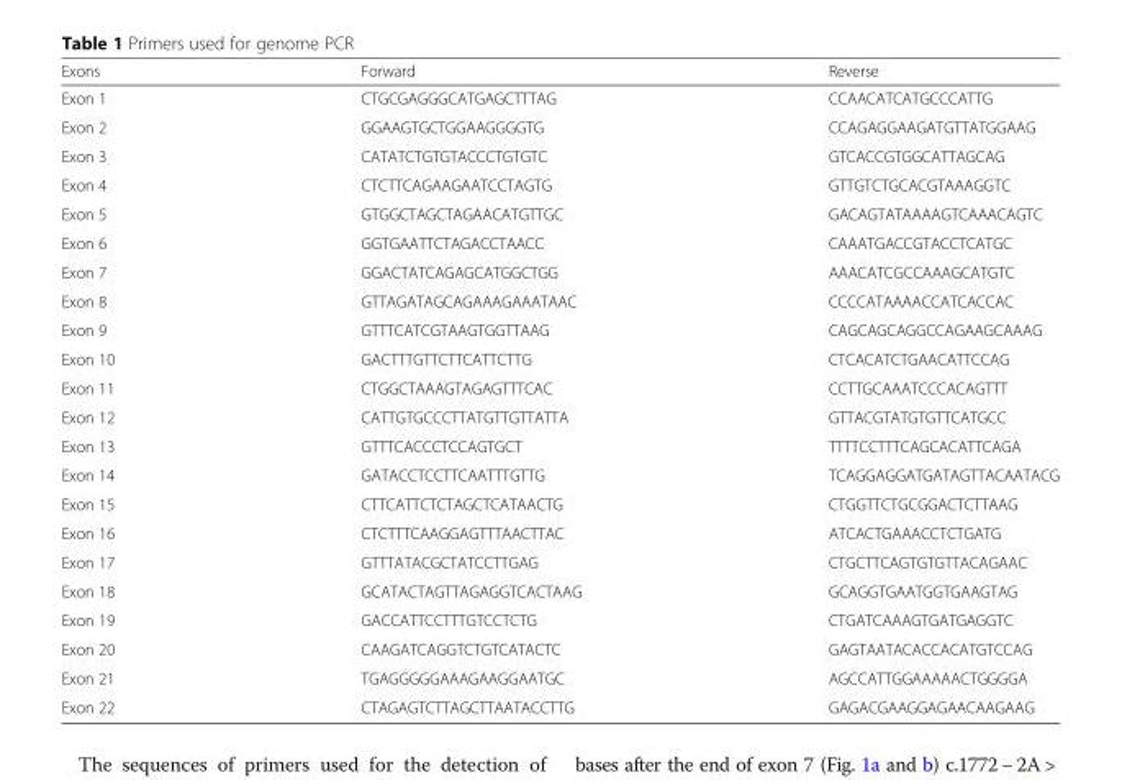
<table><thead><tr><td>Exons</td><td>Forward</td><td>Reverse</td></tr></thead><tbody><tr><td>Exon 1</td><td>CTGCGAGGGCATGAGCTTTAG</td><td>CCAACATCATGCCCATTG</td></tr><tr><td>Exon 2</td><td>GGAAGTGCTGGAAGGGGTG</td><td>CCAGAGGAAGATGTTATGGAAG</td></tr><tr><td>Exon 3</td><td>CATATCTGTGTACCCTGTGTC</td><td>GTCACCGTGGCATTAGCAG</td></tr><tr><td>Exon 4</td><td>CTCTTCAGAAGAATCCTAGTG</td><td>GTTGTCTGCACGTAAAGGTC</td></tr><tr><td>Exon 5</td><td>GTGGCTAGCTAGAACATGTTGC</td><td>GACAGTATAAAAGTCAAACAGTC</td></tr><tr><td>Exon 6</td><td>GGTGAATTCTAGACCTAACC</td><td>CAAATGACCGTACCTCATGC</td></tr><tr><td>Exon 7</td><td>GGACTATCAGAGCATGGCTGG</td><td>AAACATCGCCAAAGCATGTC</td></tr><tr><td>Exon 8</td><td>GTTAGATAGCAGAAAGAAATAAC</td><td>CCCCATAAAACCATCACCAC</td></tr><tr><td>Exon 9</td><td>GTTTCATCGTAAGTGGTTAAG</td><td>CAGCAGCAGGCCAGAAGCAAAG</td></tr><tr><td>Exon 10</td><td>GACTTTGTTCTTCATTCTTG</td><td>CTCACATCTGAACATTCCAG</td></tr><tr><td>Exon 11</td><td>CTGGCTAAAGTAGAGTTTCAC</td><td>CCTTGCAAATCCCACAGTTT</td></tr><tr><td>Exon 12</td><td>CATTGTGCCCTTATGTTGTTATTA</td><td>GTTACGTATGTGTTCATGCC</td></tr><tr><td>Exon 13</td><td>GTTTCACCCTCCAGTGCT</td><td>TTTTCCTTTCAGCACATTCAGA</td></tr><tr><td>Exon 14</td><td>GATACCTCCTTCAATTTGTTG</td><td>TCAGGAGGATGATAGTTACAATACG</td></tr><tr><td>Exon 15</td><td>CTTCATTCTCTAGCTCATAACTG</td><td>CTGGTTCTGCGGACTCTTAAG</td></tr><tr><td>Exon 16</td><td>CTCTTTCAAGGAGTTTAACTTAC</td><td>ATCACTGAAACCTCTGATG</td></tr><tr><td>Exon 17</td><td>GTTTATACGCTATCCTTGAG</td><td>CTGCTTCAGTGTGTTACAGAAC</td></tr><tr><td>Exon 18</td><td>GCATACTAGTTAGAGGTCACTAAG</td><td>GCAGGTGAATGGTGAAGTAG</td></tr><tr><td>Exon 19</td><td>GACCATTCCTTTGTCCTCTG</td><td>CTGATCAAAGTGATGAGGTC</td></tr><tr><td>Exon 20</td><td>CAAGATCAGGTCTGTCATACTC</td><td>GAGTAATACACCACATGTCCAG</td></tr><tr><td>Exon 21</td><td>TGAGGGGGAAAGAAGGAATGC</td><td>AGCCATTGGAAAAACTGGGGA</td></tr><tr><td>Exon 22</td><td>CTAGAGTCTTAGCTTAATACCTTG</td><td>GAGACGAAGGAGAACAAGAAG</td></tr></tbody></table>